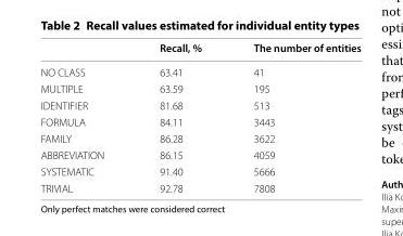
<table><thead><tr><td></td><td>Recall, %</td><td>The number of entities</td></tr></thead><tbody><tr><td>NO CLASS</td><td>63.41</td><td>41</td></tr><tr><td>MULTIPLE</td><td>63.59</td><td>195</td></tr><tr><td>IDENTIFIER</td><td>81.68</td><td>513</td></tr><tr><td>FORMULA</td><td>84.11</td><td>3443</td></tr><tr><td>FAMILY</td><td>86.28</td><td>3622</td></tr><tr><td>ABBREVIATION</td><td>86.15</td><td>4059</td></tr><tr><td>SYSTEMATIC</td><td>91.40</td><td>5666</td></tr><tr><td>TRIVIAL</td><td>92.78</td><td>7808</td></tr></tbody></table>